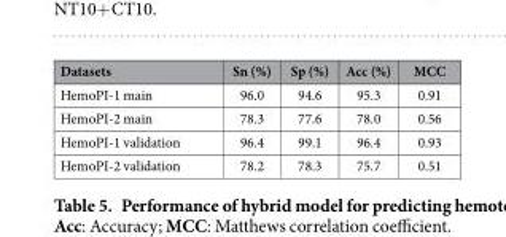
<table><thead><tr><td>Datasets</td><td>Sn (%)</td><td>Sp (%)</td><td>Acc (%)</td><td>MCC</td></tr></thead><tbody><tr><td>HemoPI-1 main</td><td>96.0</td><td>94.6</td><td>95.3</td><td>0.91</td></tr><tr><td>HemoPI-2 main</td><td>78.3</td><td>77.6</td><td>78.0</td><td>0.56</td></tr><tr><td>HemoPI-1 validation</td><td>96.4</td><td>99.1</td><td>96.4</td><td>0.93</td></tr><tr><td>HemoPI-2 validation</td><td>78.2</td><td>78.3</td><td>75.7</td><td>0.51</td></tr></tbody></table>